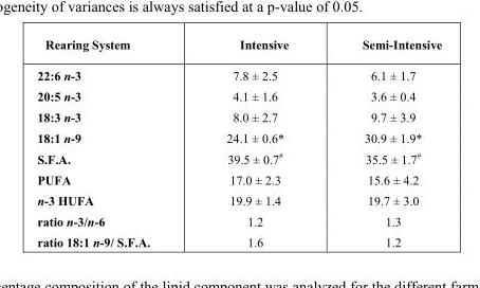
<table><thead><tr><td>Rearing System</td><td>Intensive</td><td>Semi-Intensive</td></tr></thead><tbody><tr><td>22:6 n-3</td><td>7.8 ± 2.5</td><td>6.1 ± 1.7</td></tr><tr><td>20:5 n-3</td><td>4.1 ± 1.6</td><td>3.6 ± 0.4</td></tr><tr><td>18:3 n-3</td><td>8.0 ± 2.7</td><td>9.7 ± 3.9</td></tr><tr><td>18:1 n-9</td><td>24.1 ± 0.6*</td><td>30.9 ± 1.9*</td></tr><tr><td>S.F.A.</td><td>39.5 ± 0.7<sup>#</sup></td><td>35.5 ± 1.7<sup>#</sup></td></tr><tr><td>PUFA</td><td>17.0 ± 2.3</td><td>15.6 ± 4.2</td></tr><tr><td>n-3 HUFA</td><td>19.9 ± 1.4</td><td>19.7 ± 3.0</td></tr><tr><td>ratio n-3/n-6</td><td>1.2</td><td>1.3</td></tr><tr><td>ratio 18:1 n-9/ S.F.A.</td><td>1.6</td><td>1.2</td></tr></tbody></table>